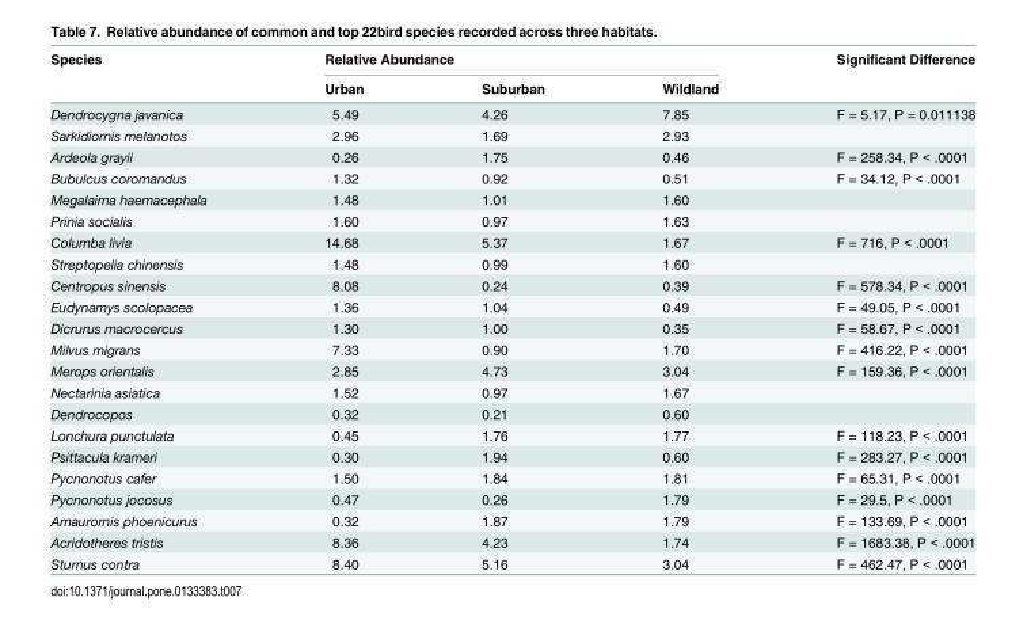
<table><thead><tr><td rowspan="2">Species</td><td colspan="3">Relative Abundance</td><td rowspan="2">Significant Difference</td></tr><tr><td>Urban</td><td>Suburban</td><td>Wildland</td></tr></thead><tbody><tr><td>Dendrocygna javanica</td><td>5.49</td><td>4.26</td><td>7.85</td><td>F = 5.17, P = 0.011138</td></tr><tr><td>Sarkidiornis melanotos</td><td>2.96</td><td>1.69</td><td>2.93</td><td></td></tr><tr><td>Ardeola grayii</td><td>0.26</td><td>1.75</td><td>0.46</td><td>F = 258.34, P &lt; .0001</td></tr><tr><td>Bubulcus coromandus</td><td>1.32</td><td>0.92</td><td>0.51</td><td>F = 34.12, P &lt; .0001</td></tr><tr><td>Megalaima haemacephala</td><td>1.48</td><td>1.01</td><td>1.60</td><td></td></tr><tr><td>Prinia socialis</td><td>1.60</td><td>0.97</td><td>1.63</td><td></td></tr><tr><td>Columba livia</td><td>14.68</td><td>5.37</td><td>1.67</td><td>F = 716, P &lt; .0001</td></tr><tr><td>Streptopelia chinensis</td><td>1.48</td><td>0.99</td><td>1.60</td><td></td></tr><tr><td>Centropus sinensis</td><td>8.08</td><td>0.24</td><td>0.39</td><td>F = 578.34, P &lt; .0001</td></tr><tr><td>Eudynamys scolopacea</td><td>1.36</td><td>1.04</td><td>0.49</td><td>F = 49.05, P &lt; .0001</td></tr><tr><td>Dicrurus macrocercus</td><td>1.30</td><td>1.00</td><td>0.35</td><td>F = 58.67, P &lt; .0001</td></tr><tr><td>Milvus migrans</td><td>7.33</td><td>0.90</td><td>1.70</td><td>F = 416.22, P &lt; .0001</td></tr><tr><td>Merops orientalis</td><td>2.85</td><td>4.73</td><td>3.04</td><td>F = 159.36, P &lt; .0001</td></tr><tr><td>Nectarinia asiatica</td><td>1.52</td><td>0.97</td><td>1.67</td><td></td></tr><tr><td>Dendrocopos</td><td>0.32</td><td>0.21</td><td>0.60</td><td></td></tr><tr><td>Lonchura punctulata</td><td>0.45</td><td>1.76</td><td>1.77</td><td>F = 118.23, P &lt; .0001</td></tr><tr><td>Psittacula krameri</td><td>0.30</td><td>1.94</td><td>0.60</td><td>F = 283.27, P &lt; .0001</td></tr><tr><td>Pycnonotus cafer</td><td>1.50</td><td>1.84</td><td>1.81</td><td>F = 65.31, P &lt; .0001</td></tr><tr><td>Pycnonotus jocosus</td><td>0.47</td><td>0.26</td><td>1.79</td><td>F = 29.5, P &lt; .0001</td></tr><tr><td>Amaurornis phoenicurus</td><td>0.32</td><td>1.87</td><td>1.79</td><td>F = 133.69, P &lt; .0001</td></tr><tr><td>Acridotheres tristis</td><td>8.36</td><td>4.23</td><td>1.74</td><td>F = 1683.38, P &lt; .0001</td></tr><tr><td>Sturnus contra</td><td>8.40</td><td>5.16</td><td>3.04</td><td>F = 462.47, P &lt; .0001</td></tr></tbody></table>